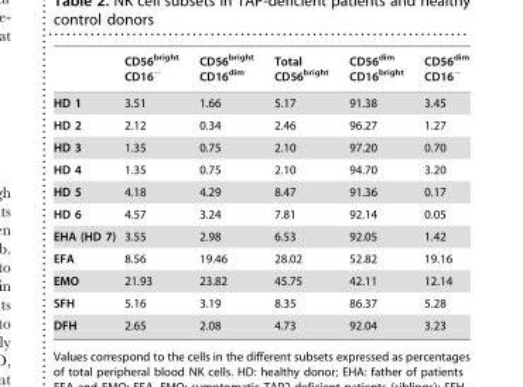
<table><thead><tr><td></td><td>CD56<sup>bright</sup> CD16<sup>−</sup></td><td>CD56<sup>bright</sup> CD16<sup>dim</sup></td><td>Total CD56<sup>bright</sup></td><td>CD56<sup>dim</sup> CD16<sup>bright</sup></td><td>CD56<sup>dim</sup> CD16<sup>−</sup></td></tr></thead><tbody><tr><td>HD 1</td><td>3.51</td><td>1.66</td><td>5.17</td><td>91.38</td><td>3.45</td></tr><tr><td>HD 2</td><td>2.12</td><td>0.34</td><td>2.46</td><td>96.27</td><td>1.27</td></tr><tr><td>HD 3</td><td>1.35</td><td>0.75</td><td>2.10</td><td>97.20</td><td>0.70</td></tr><tr><td>HD 4</td><td>1.35</td><td>0.75</td><td>2.10</td><td>94.70</td><td>3.20</td></tr><tr><td>HD 5</td><td>4.18</td><td>4.29</td><td>8.47</td><td>91.36</td><td>0.17</td></tr><tr><td>HD 6</td><td>4.57</td><td>3.24</td><td>7.81</td><td>92.14</td><td>0.05</td></tr><tr><td>EHA (HD 7)</td><td>3.55</td><td>2.98</td><td>6.53</td><td>92.05</td><td>1.42</td></tr><tr><td>EFA</td><td>8.56</td><td>19.46</td><td>28.02</td><td>52.82</td><td>19.16</td></tr><tr><td>EMO</td><td>21.93</td><td>23.82</td><td>45.75</td><td>42.11</td><td>12.14</td></tr><tr><td>SFH</td><td>5.16</td><td>3.19</td><td>8.35</td><td>86.37</td><td>5.28</td></tr><tr><td>DFH</td><td>2.65</td><td>2.08</td><td>4.73</td><td>92.04</td><td>3.23</td></tr></tbody></table>